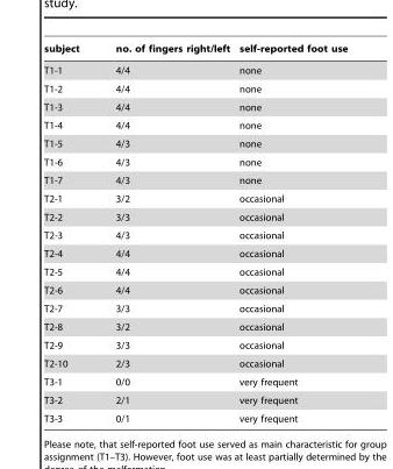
<table><thead><tr><td>subject</td><td>no. of fingers right/left</td><td>self-reported foot use</td></tr></thead><tbody><tr><td>T1-1</td><td>4/4</td><td>none</td></tr><tr><td>T1-2</td><td>4/4</td><td>none</td></tr><tr><td>T1-3</td><td>4/4</td><td>none</td></tr><tr><td>T1-4</td><td>4/4</td><td>none</td></tr><tr><td>T1-5</td><td>4/3</td><td>none</td></tr><tr><td>T1-6</td><td>4/3</td><td>none</td></tr><tr><td>T1-7</td><td>4/3</td><td>none</td></tr><tr><td>T2-1</td><td>3/2</td><td>occasional</td></tr><tr><td>T2-2</td><td>3/3</td><td>occasional</td></tr><tr><td>T2-3</td><td>4/3</td><td>occasional</td></tr><tr><td>T2-4</td><td>4/4</td><td>occasional</td></tr><tr><td>T2-5</td><td>4/4</td><td>occasional</td></tr><tr><td>T2-6</td><td>4/4</td><td>occasional</td></tr><tr><td>T2-7</td><td>3/3</td><td>occasional</td></tr><tr><td>T2-8</td><td>3/2</td><td>occasional</td></tr><tr><td>T2-9</td><td>3/3</td><td>occasional</td></tr><tr><td>T2-10</td><td>2/3</td><td>occasional</td></tr><tr><td>T3-1</td><td>0/0</td><td>very frequent</td></tr><tr><td>T3-2</td><td>2/1</td><td>very frequent</td></tr><tr><td>T3-3</td><td>0/1</td><td>very frequent</td></tr></tbody></table>